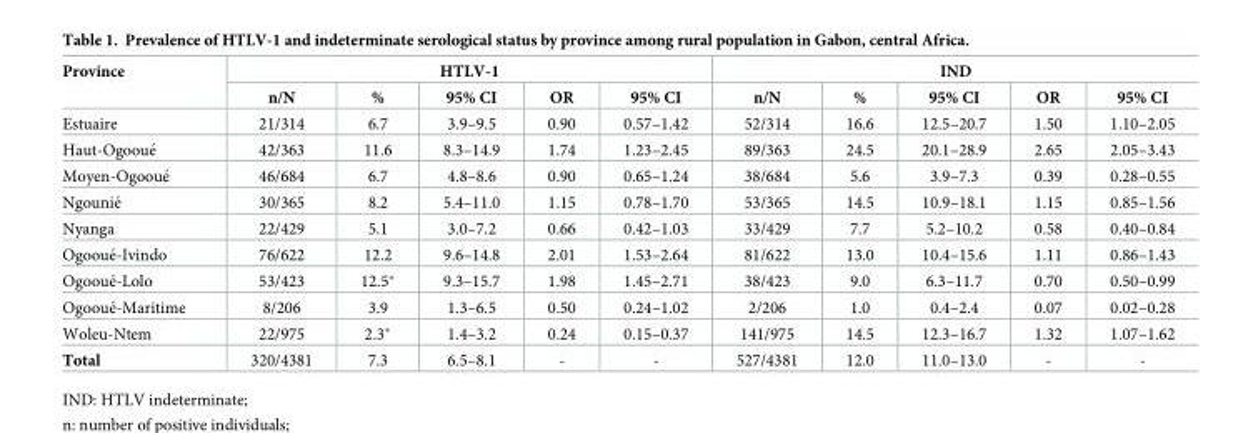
<table><thead><tr><td rowspan="2">Province</td><td colspan="5">HTLV-1</td><td colspan="5">IND</td></tr><tr><td>n/N</td><td>%</td><td>95% CI</td><td>OR</td><td>95% CI</td><td>n/N</td><td>%</td><td>95% CI</td><td>OR</td><td>95% CI</td></tr></thead><tbody><tr><td>Estuaire</td><td>21/314</td><td>6.7</td><td>3.9–9.5</td><td>0.90</td><td>0.57–1.42</td><td>52/314</td><td>16.6</td><td>12.5–20.7</td><td>1.50</td><td>1.10–2.05</td></tr><tr><td>Haut-Ogooue´</td><td>42/363</td><td>11.6</td><td>8.3–14.9</td><td>1.74</td><td>1.23–2.45</td><td>89/363</td><td>24.5</td><td>20.1–28.9</td><td>2.65</td><td>2.05–3.43</td></tr><tr><td>Moyen-Ogooue´</td><td>46/684</td><td>6.7</td><td>4.8–8.6</td><td>0.90</td><td>0.65–1.24</td><td>38/684</td><td>5.6</td><td>3.9–7.3</td><td>0.39</td><td>0.28–0.55</td></tr><tr><td>Ngounie´</td><td>30/365</td><td>8.2</td><td>5.4–11.0</td><td>1.15</td><td>0.78–1.70</td><td>53/365</td><td>14.5</td><td>10.9–18.1</td><td>1.15</td><td>0.85–1.56</td></tr><tr><td>Nyanga</td><td>22/429</td><td>5.1</td><td>3.0–7.2</td><td>0.66</td><td>0.42–1.03</td><td>33/429</td><td>7.7</td><td>5.2–10.2</td><td>0.58</td><td>0.40–0.84</td></tr><tr><td>Ogooue´-Ivindo</td><td>76/622</td><td>12.2</td><td>9.6–14.8</td><td>2.01</td><td>1.53–2.64</td><td>81/622</td><td>13.0</td><td>10.4–15.6</td><td>1.11</td><td>0.86–1.43</td></tr><tr><td>Ogooue´-Lolo</td><td>53/423</td><td>12.5*</td><td>9.3–15.7</td><td>1.98</td><td>1.45–2.71</td><td>38/423</td><td>9.0</td><td>6.3–11.7</td><td>0.70</td><td>0.50–0.99</td></tr><tr><td>Ogooue´-Maritime</td><td>8/206</td><td>3.9</td><td>1.3–6.5</td><td>0.50</td><td>0.24–1.02</td><td>2/206</td><td>1.0</td><td>0.4–2.4</td><td>0.07</td><td>0.02–0.28</td></tr><tr><td>Woleu-Ntem</td><td>22/975</td><td>2.3*</td><td>1.4–3.2</td><td>0.24</td><td>0.15–0.37</td><td>141/975</td><td>14.5</td><td>12.3–16.7</td><td>1.32</td><td>1.07–1.62</td></tr><tr><td>Total</td><td>320/4381</td><td>7.3</td><td>6.5–8.1</td><td>-</td><td>-</td><td>527/4381</td><td>12.0</td><td>11.0–13.0</td><td>-</td><td>-</td></tr></tbody></table>